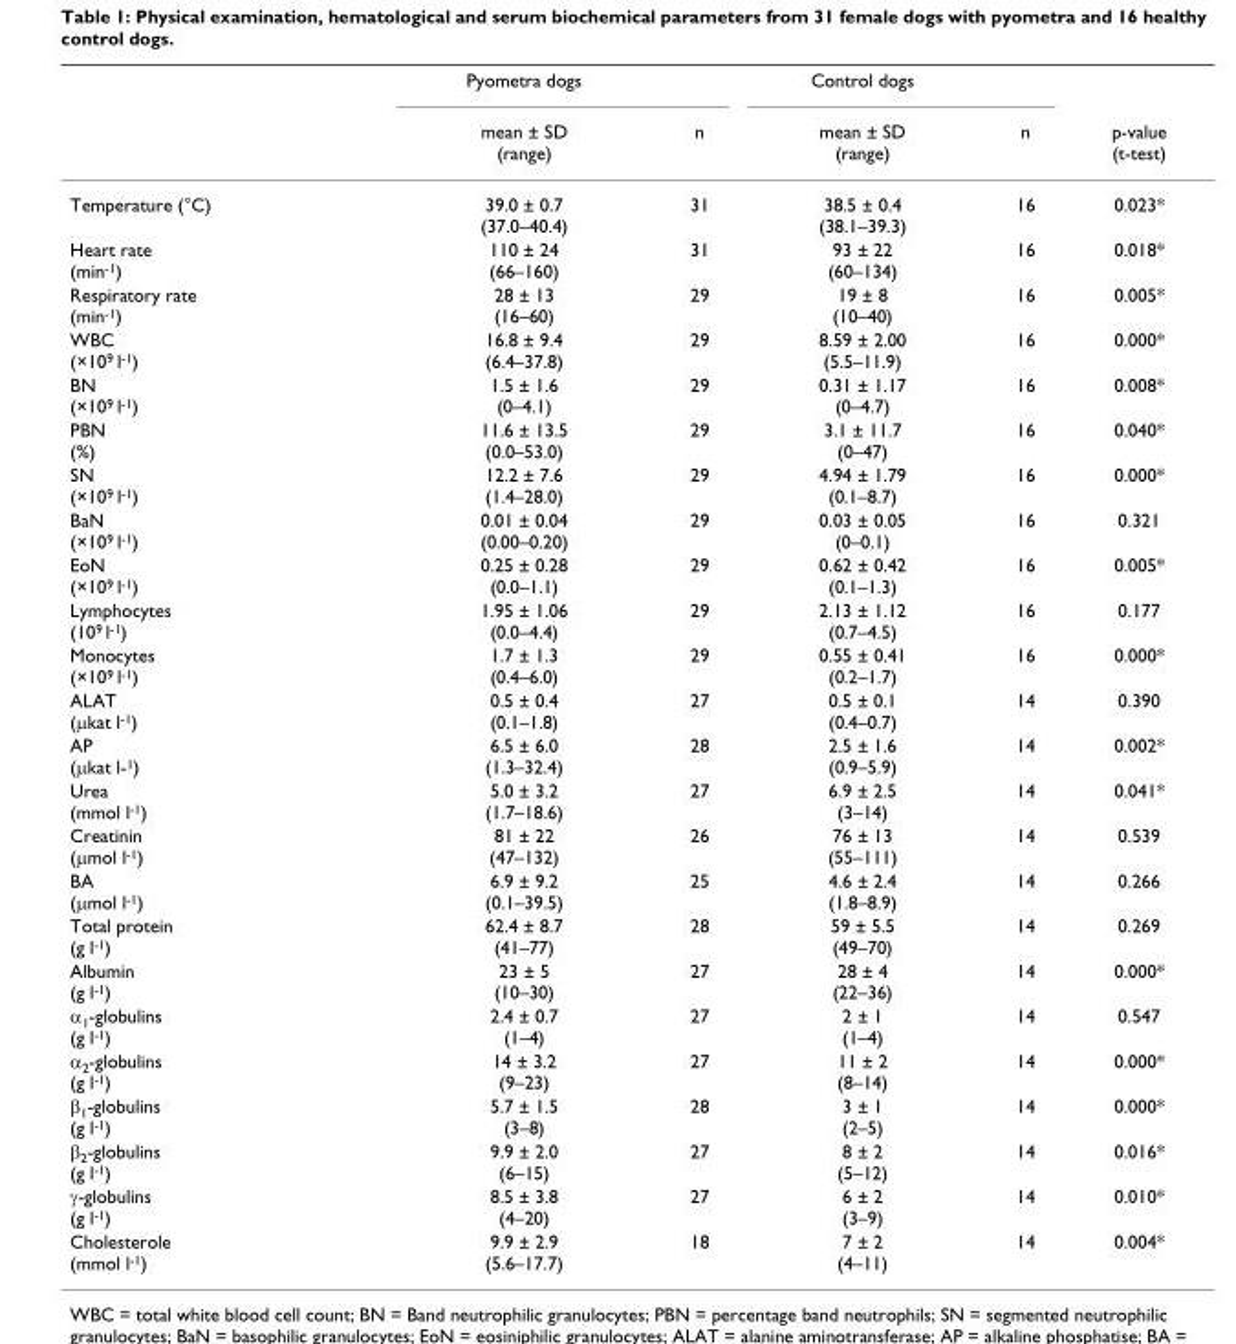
<table><thead><tr><td rowspan="2"></td><td rowspan="2">Pyometra dogs mean ± SD (range)</td><td rowspan="2">n</td><td rowspan="2">Control dogs mean ± SD (range)</td><td rowspan="2">n</td><td rowspan="2">p-value (t-test)</td></tr><tr></tr></thead><tbody><tr><td>Temperature (°C)</td><td>39.0 ± 0.7 (37.0–40.4)</td><td>31</td><td>38.5 ± 0.4 (38.1–39.3)</td><td>16</td><td>0.023*</td></tr><tr><td>Heart rate (min<sup>-1</sup>)</td><td>110 ± 24 (66–160)</td><td>31</td><td>93 ± 22 (60–134)</td><td>16</td><td>0.018*</td></tr><tr><td>Respiratory rate (min<sup>-1</sup>)</td><td>28 ± 13 (16–60)</td><td>29</td><td>19 ± 8 (10–40)</td><td>16</td><td>0.005*</td></tr><tr><td>WBC (×10<sup>9</sup> l<sup>-1</sup>)</td><td>16.8 ± 9.4 (6.4–37.8)</td><td>29</td><td>8.59 ± 2.00 (5.5–11.9)</td><td>16</td><td>0.000*</td></tr><tr><td>BN (×10<sup>9</sup> l<sup>-1</sup>)</td><td>1.5 ± 1.6 (0–4.1)</td><td>29</td><td>0.31 ± 1.17 (0–4.7)</td><td>16</td><td>0.008*</td></tr><tr><td>PBN (%)</td><td>11.6 ± 13.5 (0.0–53.0)</td><td>29</td><td>3.1 ± 11.7 (0–47)</td><td>16</td><td>0.040*</td></tr><tr><td>SN (×10<sup>9</sup> l<sup>-1</sup>)</td><td>12.2 ± 7.6 (1.4–28.0)</td><td>29</td><td>4.94 ± 1.79 (0.1–8.7)</td><td>16</td><td>0.000*</td></tr><tr><td>BaN (×10<sup>9</sup> l<sup>-1</sup>)</td><td>0.01 ± 0.04 (0.00–0.20)</td><td>29</td><td>0.03 ± 0.05 (0–0.1)</td><td>16</td><td>0.321</td></tr><tr><td>EoN (×10<sup>9</sup> l<sup>-1</sup>)</td><td>0.25 ± 0.28 (0.0–1.1)</td><td>29</td><td>0.62 ± 0.42 (0.1–1.3)</td><td>16</td><td>0.005*</td></tr><tr><td>Lymphocytes (10<sup>9</sup> l<sup>-1</sup>)</td><td>1.95 ± 1.06 (0.0–4.4)</td><td>29</td><td>2.13 ± 1.12 (0.7–4.5)</td><td>16</td><td>0.177</td></tr><tr><td>Monocytes (×10<sup>9</sup> l<sup>-1</sup>)</td><td>1.7 ± 1.3 (0.4–6.0)</td><td>29</td><td>0.55 ± 0.41 (0.2–1.7)</td><td>16</td><td>0.000*</td></tr><tr><td>ALAT (μkat l<sup>-1</sup>)</td><td>0.5 ± 0.4 (0.1–1.8)</td><td>27</td><td>0.5 ± 0.1 (0.4–0.7)</td><td>14</td><td>0.390</td></tr><tr><td>AP (μkat l-<sup>1</sup>)</td><td>6.5 ± 6.0 (1.3–32.4)</td><td>28</td><td>2.5 ± 1.6 (0.9–5.9)</td><td>14</td><td>0.002*</td></tr><tr><td>Urea (mmol l<sup>-1</sup>)</td><td>5.0 ± 3.2 (1.7–18.6)</td><td>27</td><td>6.9 ± 2.5 (3–14)</td><td>14</td><td>0.041*</td></tr><tr><td>Creatinin (μmol l<sup>-1</sup>)</td><td>81 ± 22 (47–132)</td><td>26</td><td>76 ± 13 (55–111)</td><td>14</td><td>0.539</td></tr><tr><td>BA (μmol l<sup>-1</sup>)</td><td>6.9 ± 9.2 (0.1–39.5)</td><td>25</td><td>4.6 ± 2.4 (1.8–8.9)</td><td>14</td><td>0.266</td></tr><tr><td>Total protein (g l<sup>-1</sup>)</td><td>62.4 ± 8.7 (41–77)</td><td>28</td><td>59 ± 5.5 (49–70)</td><td>14</td><td>0.269</td></tr><tr><td>Albumin (g l<sup>-1</sup>)</td><td>23 ± 5 (10–30)</td><td>27</td><td>28 ± 4 (22–36)</td><td>14</td><td>0.000*</td></tr><tr><td>α<sub>1</sub>-globulins (g l<sup>-1</sup>)</td><td>2.4 ± 0.7 (1–4)</td><td>27</td><td>2 ± 1 (1–4)</td><td>14</td><td>0.547</td></tr><tr><td>α<sub>2</sub>-globulins (g l<sup>-1</sup>)</td><td>14 ± 3.2 (9–23)</td><td>27</td><td>11 ± 2 (8–14)</td><td>14</td><td>0.000*</td></tr><tr><td>β<sub>1</sub>-globulins (g l<sup>-1</sup>)</td><td>5.7 ± 1.5 (3–8)</td><td>28</td><td>3 ± 1 (2–5)</td><td>14</td><td>0.000*</td></tr><tr><td>β<sub>2</sub>-globulins (g l<sup>-1</sup>)</td><td>9.9 ± 2.0 (6–15)</td><td>27</td><td>8 ± 2 (5–12)</td><td>14</td><td>0.016*</td></tr><tr><td>γ-globulins (g l<sup>-1</sup>)</td><td>8.5 ± 3.8 (4–20)</td><td>27</td><td>6 ± 2 (3–9)</td><td>14</td><td>0.010*</td></tr><tr><td>Cholesterole (mmol l<sup>-1</sup>)</td><td>9.9 ± 2.9 (5.6–17.7)</td><td>18</td><td>7 ± 2 (4–11)</td><td>14</td><td>0.004*</td></tr></tbody></table>